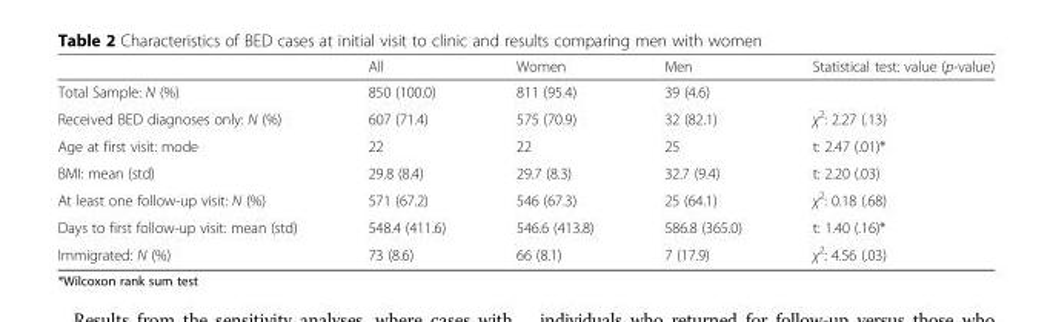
<table><thead><tr><td></td><td>All</td><td>Women</td><td>Men</td><td>Statistical test: value (p-value)</td></tr></thead><tbody><tr><td>Total Sample: N (%)</td><td>850 (100.0)</td><td>811 (95.4)</td><td>39 (4.6)</td><td></td></tr><tr><td>Received BED diagnoses only: N (%)</td><td>607 (71.4)</td><td>575 (70.9)</td><td>32 (82.1)</td><td>χ<sup>2</sup>: 2.27 (.13)</td></tr><tr><td>Age at first visit: mode</td><td>22</td><td>22</td><td>25</td><td>t: 2.47 (.01)*</td></tr><tr><td>BMI: mean (std)</td><td>29.8 (8.4)</td><td>29.7 (8.3)</td><td>32.7 (9.4)</td><td>t: 2.20 (.03)</td></tr><tr><td>At least one follow-up visit: N (%)</td><td>571 (67.2)</td><td>546 (67.3)</td><td>25 (64.1)</td><td>χ<sup>2</sup>: 0.18 (.68)</td></tr><tr><td>Days to first follow-up visit: mean (std)</td><td>548.4 (411.6)</td><td>546.6 (413.8)</td><td>586.8 (365.0)</td><td>t: 1.40 (.16)*</td></tr><tr><td>Immigrated: N (%)</td><td>73 (8.6)</td><td>66 (8.1)</td><td>7 (17.9)</td><td>χ<sup>2</sup>: 4.56 (.03)</td></tr></tbody></table>